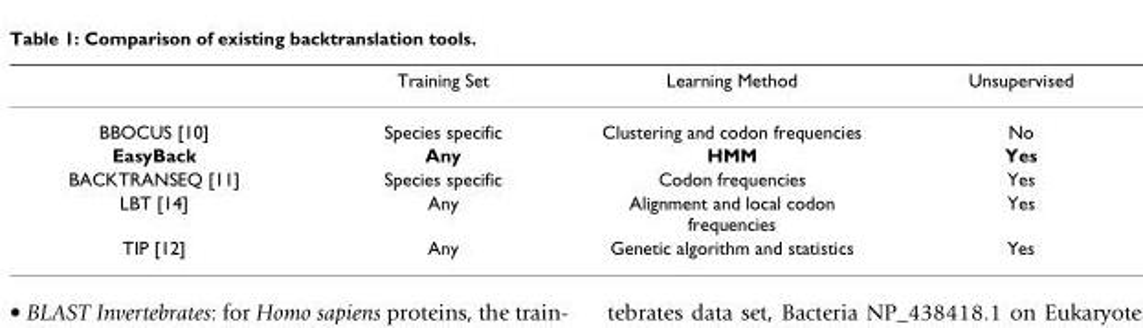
<table><thead><tr><td></td><td>Training Set</td><td>Learning Method</td><td>Unsupervised</td></tr></thead><tbody><tr><td>BBOCUS [10]</td><td>Species specific</td><td>Clustering and codon frequencies</td><td>No</td></tr><tr><td>EasyBack</td><td>Any</td><td>HMM</td><td>Yes</td></tr><tr><td>BACKTRANSEQ [11]</td><td>Species specific</td><td>Codon frequencies</td><td>Yes</td></tr><tr><td>LBT [14]</td><td>Any</td><td>Alignment and local codon frequencies</td><td>Yes</td></tr><tr><td>TIP [12]</td><td>Any</td><td>Genetic algorithm and statistics</td><td>Yes</td></tr></tbody></table>